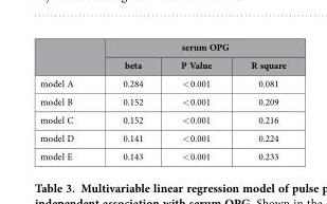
<table><thead><tr><td rowspan="2"></td><td colspan="3">serum OPG</td></tr><tr><td>beta</td><td>P Value</td><td>R square</td></tr></thead><tbody><tr><td>model A</td><td>0.284</td><td>&lt; 0.001</td><td>0.081</td></tr><tr><td>model B</td><td>0.152</td><td>&lt; 0.001</td><td>0.209</td></tr><tr><td>model C</td><td>0.152</td><td>&lt; 0.001</td><td>0.216</td></tr><tr><td>model D</td><td>0.141</td><td>&lt; 0.001</td><td>0.224</td></tr><tr><td>model E</td><td>0.143</td><td>&lt; 0.001</td><td>0.233</td></tr></tbody></table>